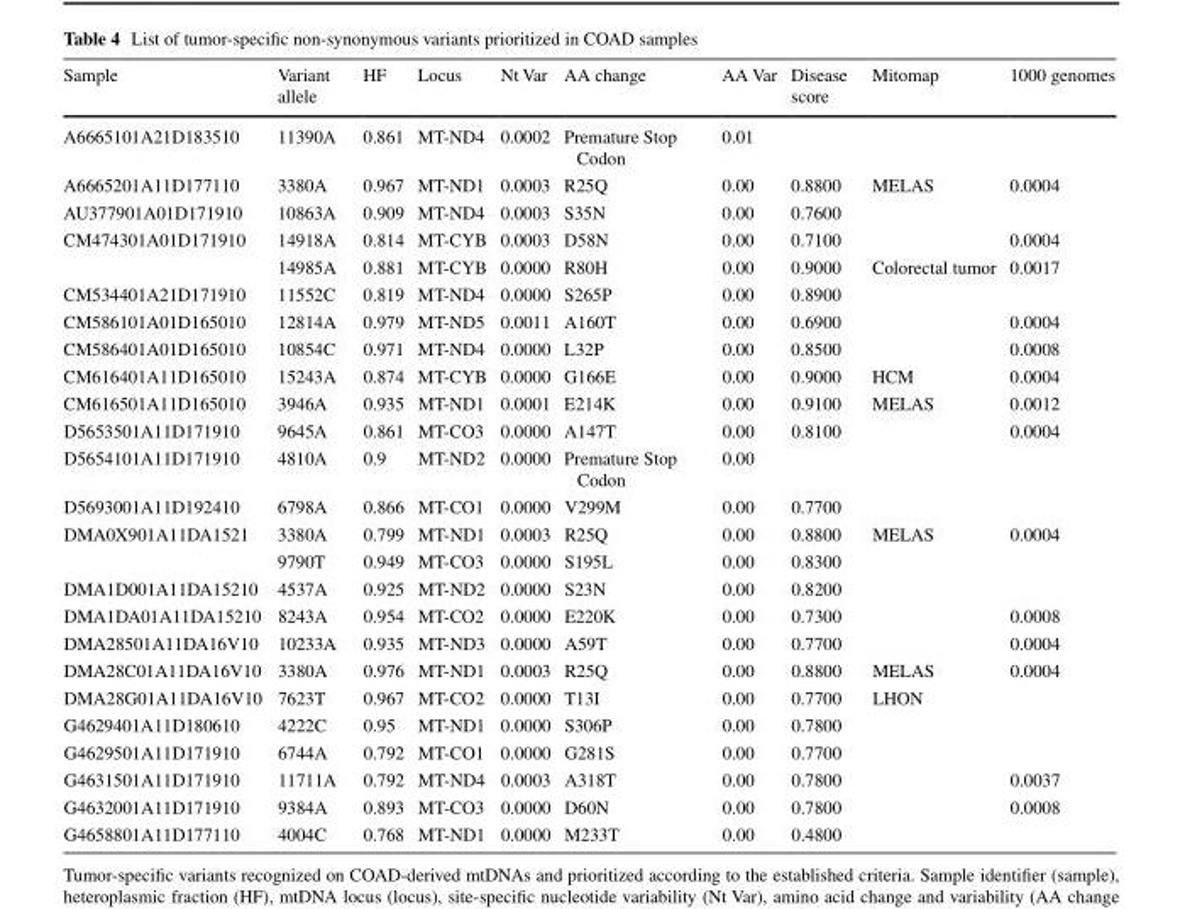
<table><thead><tr><td>Sample</td><td>Variant allele</td><td>HF</td><td>Locus</td><td>Nt Var</td><td>AA change</td><td>AA Var</td><td>Disease score</td><td>Mitomap</td><td>1000 genomes</td></tr></thead><tbody><tr><td>A6665101A21D183510</td><td>11390A</td><td>0.861</td><td>MT-ND4</td><td>0.0002</td><td>Premature Stop Codon</td><td>0.01</td><td></td><td></td><td></td></tr><tr><td>A6665201A11D177110</td><td>3380A</td><td>0.967</td><td>MT-ND1</td><td>0.0003</td><td>R25Q</td><td>0.00</td><td>0.8800</td><td>MELAS</td><td>0.0004</td></tr><tr><td>AU377901A01D171910</td><td>10863A</td><td>0.909</td><td>MT-ND4</td><td>0.0003</td><td>S35N</td><td>0.00</td><td>0.7600</td><td></td><td></td></tr><tr><td rowspan="2">CM474301A01D171910</td><td>14918A</td><td>0.814</td><td>MT-CYB</td><td>0.0003</td><td>D58N</td><td>0.00</td><td>0.7100</td><td></td><td>0.0004</td></tr><tr><td>14985A</td><td>0.881</td><td>MT-CYB</td><td>0.0000</td><td>R80H</td><td>0.00</td><td>0.9000</td><td>Colorectal tumor</td><td>0.0017</td></tr><tr><td>CM534401A21D171910</td><td>11552C</td><td>0.819</td><td>MT-ND4</td><td>0.0000</td><td>S265P</td><td>0.00</td><td>0.8900</td><td></td><td></td></tr><tr><td>CM586101A01D165010</td><td>12814A</td><td>0.979</td><td>MT-ND5</td><td>0.0011</td><td>A160T</td><td>0.00</td><td>0.6900</td><td></td><td>0.0004</td></tr><tr><td>CM586401A01D165010</td><td>10854C</td><td>0.971</td><td>MT-ND4</td><td>0.0000</td><td>L32P</td><td>0.00</td><td>0.8500</td><td></td><td>0.0008</td></tr><tr><td>CM616401A11D165010</td><td>15243A</td><td>0.874</td><td>MT-CYB</td><td>0.0000</td><td>G166E</td><td>0.00</td><td>0.9000</td><td>HCM</td><td>0.0004</td></tr><tr><td>CM616501A11D165010</td><td>3946A</td><td>0.935</td><td>MT-ND1</td><td>0.0001</td><td>E214K</td><td>0.00</td><td>0.9100</td><td>MELAS</td><td>0.0012</td></tr><tr><td>D5653501A11D171910</td><td>9645A</td><td>0.861</td><td>MT-CO3</td><td>0.0000</td><td>A147T</td><td>0.00</td><td>0.8100</td><td></td><td>0.0004</td></tr><tr><td>D5654101A11D171910</td><td>4810A</td><td>0.9</td><td>MT-ND2</td><td>0.0000</td><td>Premature Stop Codon</td><td>0.00</td><td></td><td></td><td></td></tr><tr><td>D5693001A11D192410</td><td>6798A</td><td>0.866</td><td>MT-CO1</td><td>0.0000</td><td>V299M</td><td>0.00</td><td>0.7700</td><td></td><td></td></tr><tr><td rowspan="2">DMA0X901A11DA1521</td><td>3380A</td><td>0.799</td><td>MT-ND1</td><td>0.0003</td><td>R25Q</td><td>0.00</td><td>0.8800</td><td>MELAS</td><td>0.0004</td></tr><tr><td>9790T</td><td>0.949</td><td>MT-CO3</td><td>0.0000</td><td>S195L</td><td>0.00</td><td>0.8300</td><td></td><td></td></tr><tr><td>DMA1D001A11DA15210</td><td>4537A</td><td>0.925</td><td>MT-ND2</td><td>0.0000</td><td>S23N</td><td>0.00</td><td>0.8200</td><td></td><td></td></tr><tr><td>DMA1DA01A11DA15210</td><td>8243A</td><td>0.954</td><td>MT-CO2</td><td>0.0000</td><td>E220K</td><td>0.00</td><td>0.7300</td><td></td><td>0.0008</td></tr><tr><td>DMA28501A11DA16V10</td><td>10233A</td><td>0.935</td><td>MT-ND3</td><td>0.0000</td><td>A59T</td><td>0.00</td><td>0.7700</td><td></td><td>0.0004</td></tr><tr><td>DMA28C01A11DA16V10</td><td>3380A</td><td>0.976</td><td>MT-ND1</td><td>0.0003</td><td>R25Q</td><td>0.00</td><td>0.8800</td><td>MELAS</td><td>0.0004</td></tr><tr><td>DMA28G01A11DA16V10</td><td>7623T</td><td>0.967</td><td>MT-CO2</td><td>0.0000</td><td>T13I</td><td>0.00</td><td>0.7700</td><td>LHON</td><td></td></tr><tr><td>G4629401A11D180610</td><td>4222C</td><td>0.95</td><td>MT-ND1</td><td>0.0000</td><td>S306P</td><td>0.00</td><td>0.7800</td><td></td><td></td></tr><tr><td>G4629501A11D171910</td><td>6744A</td><td>0.792</td><td>MT-CO1</td><td>0.0000</td><td>G281S</td><td>0.00</td><td>0.7700</td><td></td><td></td></tr><tr><td>G4631501A11D171910</td><td>11711A</td><td>0.792</td><td>MT-ND4</td><td>0.0003</td><td>A318T</td><td>0.00</td><td>0.7800</td><td></td><td>0.0037</td></tr><tr><td>G4632001A11D171910</td><td>9384A</td><td>0.893</td><td>MT-CO3</td><td>0.0000</td><td>D60N</td><td>0.00</td><td>0.7800</td><td></td><td>0.0008</td></tr><tr><td>G4658801A11D177110</td><td>4004C</td><td>0.768</td><td>MT-ND1</td><td>0.0000</td><td>M233T</td><td>0.00</td><td>0.4800</td><td></td><td></td></tr></tbody></table>